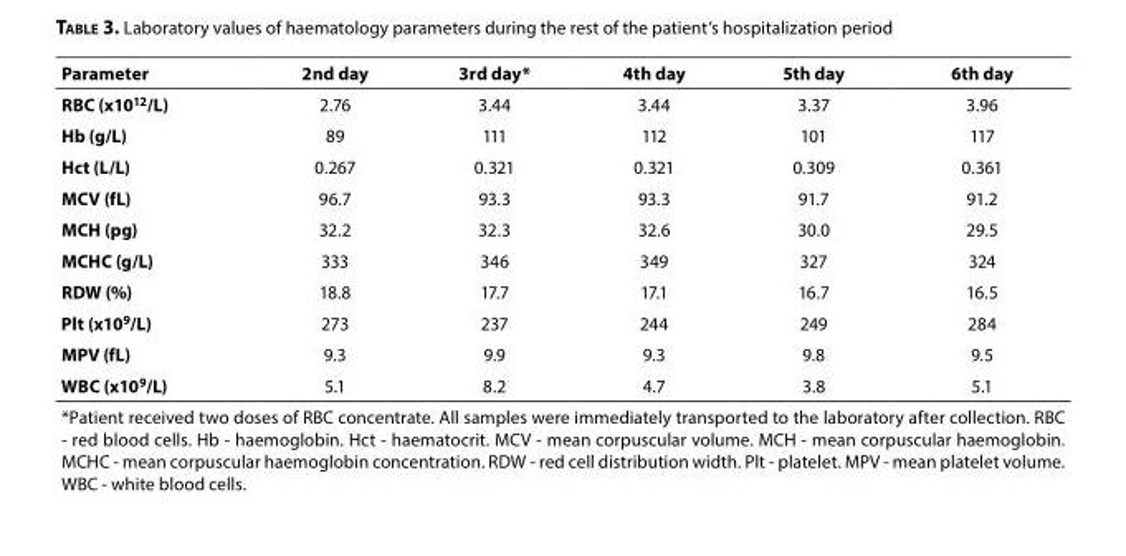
<table><thead><tr><td>Parameter</td><td>2nd day</td><td>3rd day*</td><td>4th day</td><td>5th day</td><td>6th day</td></tr></thead><tbody><tr><td>RBC (x10<sup>12</sup>/L)</td><td>2.76</td><td>3.44</td><td>3.44</td><td>3.37</td><td>3.96</td></tr><tr><td>Hb (g/L)</td><td>89</td><td>111</td><td>112</td><td>101</td><td>117</td></tr><tr><td>Hct (L/L)</td><td>0.267</td><td>0.321</td><td>0.321</td><td>0.309</td><td>0.361</td></tr><tr><td>MCV (fL)</td><td>96.7</td><td>93.3</td><td>93.3</td><td>91.7</td><td>91.2</td></tr><tr><td>MCH (pg)</td><td>32.2</td><td>32.3</td><td>32.6</td><td>30.0</td><td>29.5</td></tr><tr><td>MCHC (g/L)</td><td>333</td><td>346</td><td>349</td><td>327</td><td>324</td></tr><tr><td>RDW (%)</td><td>18.8</td><td>17.7</td><td>17.1</td><td>16.7</td><td>16.5</td></tr><tr><td>Plt (x10<sup>9</sup>/L)</td><td>273</td><td>237</td><td>244</td><td>249</td><td>284</td></tr><tr><td>MPV (fL)</td><td>9.3</td><td>9.9</td><td>9.3</td><td>9.8</td><td>9.5</td></tr><tr><td>WBC (x10<sup>9</sup>/L)</td><td>5.1</td><td>8.2</td><td>4.7</td><td>3.8</td><td>5.1</td></tr><tr><td colspan="6">*Patient received two doses of RBC concentrate. All samples were immediately transported to the laboratory after collection. RBC - red blood cells. Hb - haemoglobin. Hct - haematocrit. MCV - mean corpuscular volume. MCH - mean corpuscular haemoglobin. MCHC - mean corpuscular haemoglobin concentration. RDW - red cell distribution width. Plt - platelet. MPV - mean platelet volume. WBC - white blood cells.</td></tr></tbody></table>